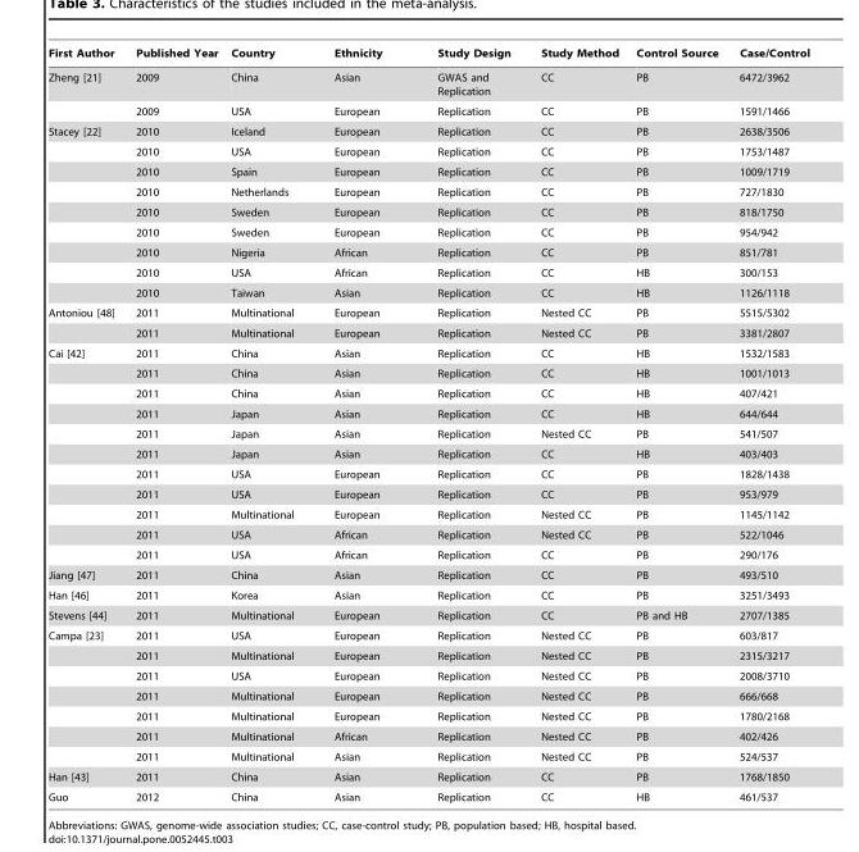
<table><thead><tr><td>First Author</td><td>Published Year</td><td>Country</td><td>Ethnicity</td><td>Study Design</td><td>Study Method</td><td>Control Source</td><td>Case/Control</td></tr></thead><tbody><tr><td rowspan="2">Zheng [21]</td><td>2009</td><td>China</td><td>Asian</td><td>GWAS and Replication</td><td>CC</td><td>PB</td><td>6472/3962</td></tr><tr><td>2009</td><td>USA</td><td>European</td><td>Replication</td><td>CC</td><td>PB</td><td>1591/1466</td></tr><tr><td rowspan="9">Stacey [22]</td><td>2010</td><td>Iceland</td><td>European</td><td>Replication</td><td>CC</td><td>PB</td><td>2638/3506</td></tr><tr><td>2010</td><td>USA</td><td>European</td><td>Replication</td><td>CC</td><td>PB</td><td>1753/1487</td></tr><tr><td>2010</td><td>Spain</td><td>European</td><td>Replication</td><td>CC</td><td>PB</td><td>1009/1719</td></tr><tr><td>2010</td><td>Netherlands</td><td>European</td><td>Replication</td><td>CC</td><td>PB</td><td>727/1830</td></tr><tr><td>2010</td><td>Sweden</td><td>European</td><td>Replication</td><td>CC</td><td>PB</td><td>818/1750</td></tr><tr><td>2010</td><td>Sweden</td><td>European</td><td>Replication</td><td>CC</td><td>PB</td><td>954/942</td></tr><tr><td>2010</td><td>Nigeria</td><td>African</td><td>Replication</td><td>CC</td><td>PB</td><td>851/781</td></tr><tr><td>2010</td><td>USA</td><td>African</td><td>Replication</td><td>CC</td><td>HB</td><td>300/153</td></tr><tr><td>2010</td><td>Taiwan</td><td>Asian</td><td>Replication</td><td>CC</td><td>HB</td><td>1126/1118</td></tr><tr><td rowspan="2">Antoniou [48]</td><td>2011</td><td>Multinational</td><td>European</td><td>Replication</td><td>Nested CC</td><td>PB</td><td>5515/5302</td></tr><tr><td>2011</td><td>Multinational</td><td>European</td><td>Replication</td><td>Nested CC</td><td>PB</td><td>3381/2807</td></tr><tr><td rowspan="11">Cai [42]</td><td>2011</td><td>China</td><td>Asian</td><td>Replication</td><td>CC</td><td>HB</td><td>1532/1583</td></tr><tr><td>2011</td><td>China</td><td>Asian</td><td>Replication</td><td>CC</td><td>HB</td><td>1001/1013</td></tr><tr><td>2011</td><td>China</td><td>Asian</td><td>Replication</td><td>CC</td><td>HB</td><td>407/421</td></tr><tr><td>2011</td><td>Japan</td><td>Asian</td><td>Replication</td><td>CC</td><td>HB</td><td>644/644</td></tr><tr><td>2011</td><td>Japan</td><td>Asian</td><td>Replication</td><td>Nested CC</td><td>PB</td><td>541/507</td></tr><tr><td>2011</td><td>Japan</td><td>Asian</td><td>Replication</td><td>CC</td><td>HB</td><td>403/403</td></tr><tr><td>2011</td><td>USA</td><td>European</td><td>Replication</td><td>CC</td><td>PB</td><td>1828/1438</td></tr><tr><td>2011</td><td>USA</td><td>European</td><td>Replication</td><td>CC</td><td>PB</td><td>953/979</td></tr><tr><td>2011</td><td>Multinational</td><td>European</td><td>Replication</td><td>Nested CC</td><td>PB</td><td>1145/1142</td></tr><tr><td>2011</td><td>USA</td><td>African</td><td>Replication</td><td>Nested CC</td><td>PB</td><td>522/1046</td></tr><tr><td>2011</td><td>USA</td><td>African</td><td>Replication</td><td>CC</td><td>PB</td><td>290/176</td></tr><tr><td>Jiang [47]</td><td>2011</td><td>China</td><td>Asian</td><td>Replication</td><td>CC</td><td>PB</td><td>493/510</td></tr><tr><td>Han [46]</td><td>2011</td><td>Korea</td><td>Asian</td><td>Replication</td><td>CC</td><td>PB</td><td>3251/3493</td></tr><tr><td>Stevens [44]</td><td>2011</td><td>Multinational</td><td>European</td><td>Replication</td><td>CC</td><td>PB and HB</td><td>2707/1385</td></tr><tr><td rowspan="7">Campa [23]</td><td>2011</td><td>USA</td><td>European</td><td>Replication</td><td>Nested CC</td><td>PB</td><td>603/817</td></tr><tr><td>2011</td><td>Multinational</td><td>European</td><td>Replication</td><td>Nested CC</td><td>PB</td><td>2315/3217</td></tr><tr><td>2011</td><td>USA</td><td>European</td><td>Replication</td><td>Nested CC</td><td>PB</td><td>2008/3710</td></tr><tr><td>2011</td><td>Multinational</td><td>European</td><td>Replication</td><td>Nested CC</td><td>PB</td><td>666/668</td></tr><tr><td>2011</td><td>Multinational</td><td>European</td><td>Replication</td><td>Nested CC</td><td>PB</td><td>1780/2168</td></tr><tr><td>2011</td><td>Multinational</td><td>African</td><td>Replication</td><td>Nested CC</td><td>PB</td><td>402/426</td></tr><tr><td>2011</td><td>Multinational</td><td>Asian</td><td>Replication</td><td>Nested CC</td><td>PB</td><td>524/537</td></tr><tr><td>Han [43]</td><td>2011</td><td>China</td><td>Asian</td><td>Replication</td><td>CC</td><td>PB</td><td>1768/1850</td></tr><tr><td>Guo</td><td>2012</td><td>China</td><td>Asian</td><td>Replication</td><td>CC</td><td>HB</td><td>461/537</td></tr></tbody></table>